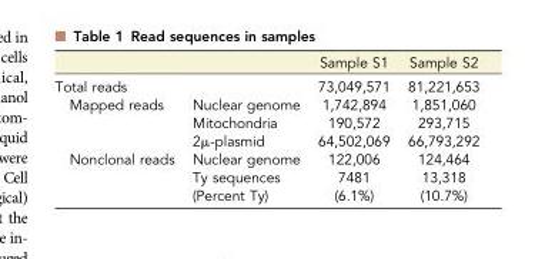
<table><thead><tr><td></td><td></td><td>Sample S1</td><td>Sample S2</td></tr></thead><tbody><tr><td>Total reads</td><td></td><td>73,049,571</td><td>81,221,653</td></tr><tr><td rowspan="3">Mapped reads</td><td>Nuclear genome</td><td>1,742,894</td><td>1,851,060</td></tr><tr><td>Mitochondria</td><td>190,572</td><td>293,715</td></tr><tr><td>2μ-plasmid</td><td>64,502,069</td><td>66,793,292</td></tr><tr><td rowspan="3">Nonclonal reads</td><td>Nuclear genome</td><td>122,006</td><td>124,464</td></tr><tr><td>Ty sequences</td><td>7481</td><td>13,318</td></tr><tr><td>(Percent Ty)</td><td>(6.1%)</td><td>(10.7%)</td></tr></tbody></table>